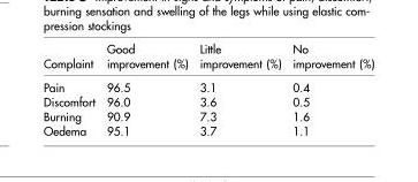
<table><thead><tr><td>Complaint</td><td>Good improvement (%)</td><td>Little improvement (%)</td><td>No improvement (%)</td></tr></thead><tbody><tr><td>Pain</td><td>96.5</td><td>3.1</td><td>0.4</td></tr><tr><td>Discomfort</td><td>96.0</td><td>3.6</td><td>0.5</td></tr><tr><td>Burning</td><td>90.9</td><td>7.3</td><td>1.6</td></tr><tr><td>Oedema</td><td>95.1</td><td>3.7</td><td>1.1</td></tr></tbody></table>